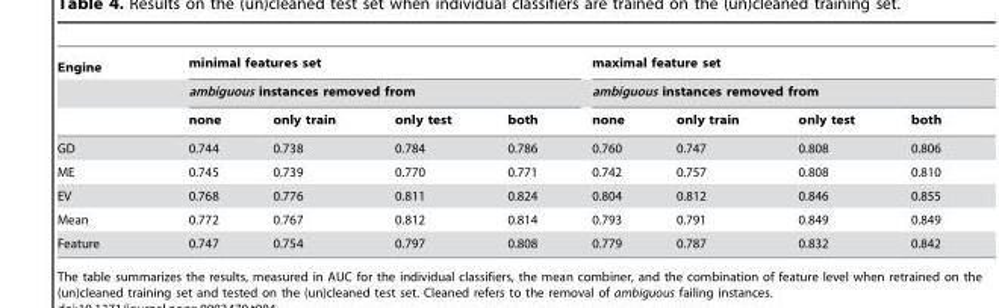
<table><thead><tr><td rowspan="3">Engine</td><td rowspan="2" colspan="4">minimal features set ambiguous instances removed from</td><td rowspan="2" colspan="4">maximal feature set ambiguous instances removed from</td></tr><tr></tr><tr><td>none</td><td>only train</td><td>only test</td><td>both</td><td>none</td><td>only train</td><td>only test</td><td>both</td></tr></thead><tbody><tr><td>GD</td><td>0.744</td><td>0.738</td><td>0.784</td><td>0.786</td><td>0.760</td><td>0.747</td><td>0.808</td><td>0.806</td></tr><tr><td>ME</td><td>0.745</td><td>0.739</td><td>0.770</td><td>0.771</td><td>0.742</td><td>0.757</td><td>0.808</td><td>0.810</td></tr><tr><td>EV</td><td>0.768</td><td>0.776</td><td>0.811</td><td>0.824</td><td>0.804</td><td>0.812</td><td>0.846</td><td>0.855</td></tr><tr><td>Mean</td><td>0.772</td><td>0.767</td><td>0.812</td><td>0.814</td><td>0.793</td><td>0.791</td><td>0.849</td><td>0.849</td></tr><tr><td>Feature</td><td>0.747</td><td>0.754</td><td>0.797</td><td>0.808</td><td>0.779</td><td>0.787</td><td>0.832</td><td>0.842</td></tr></tbody></table>